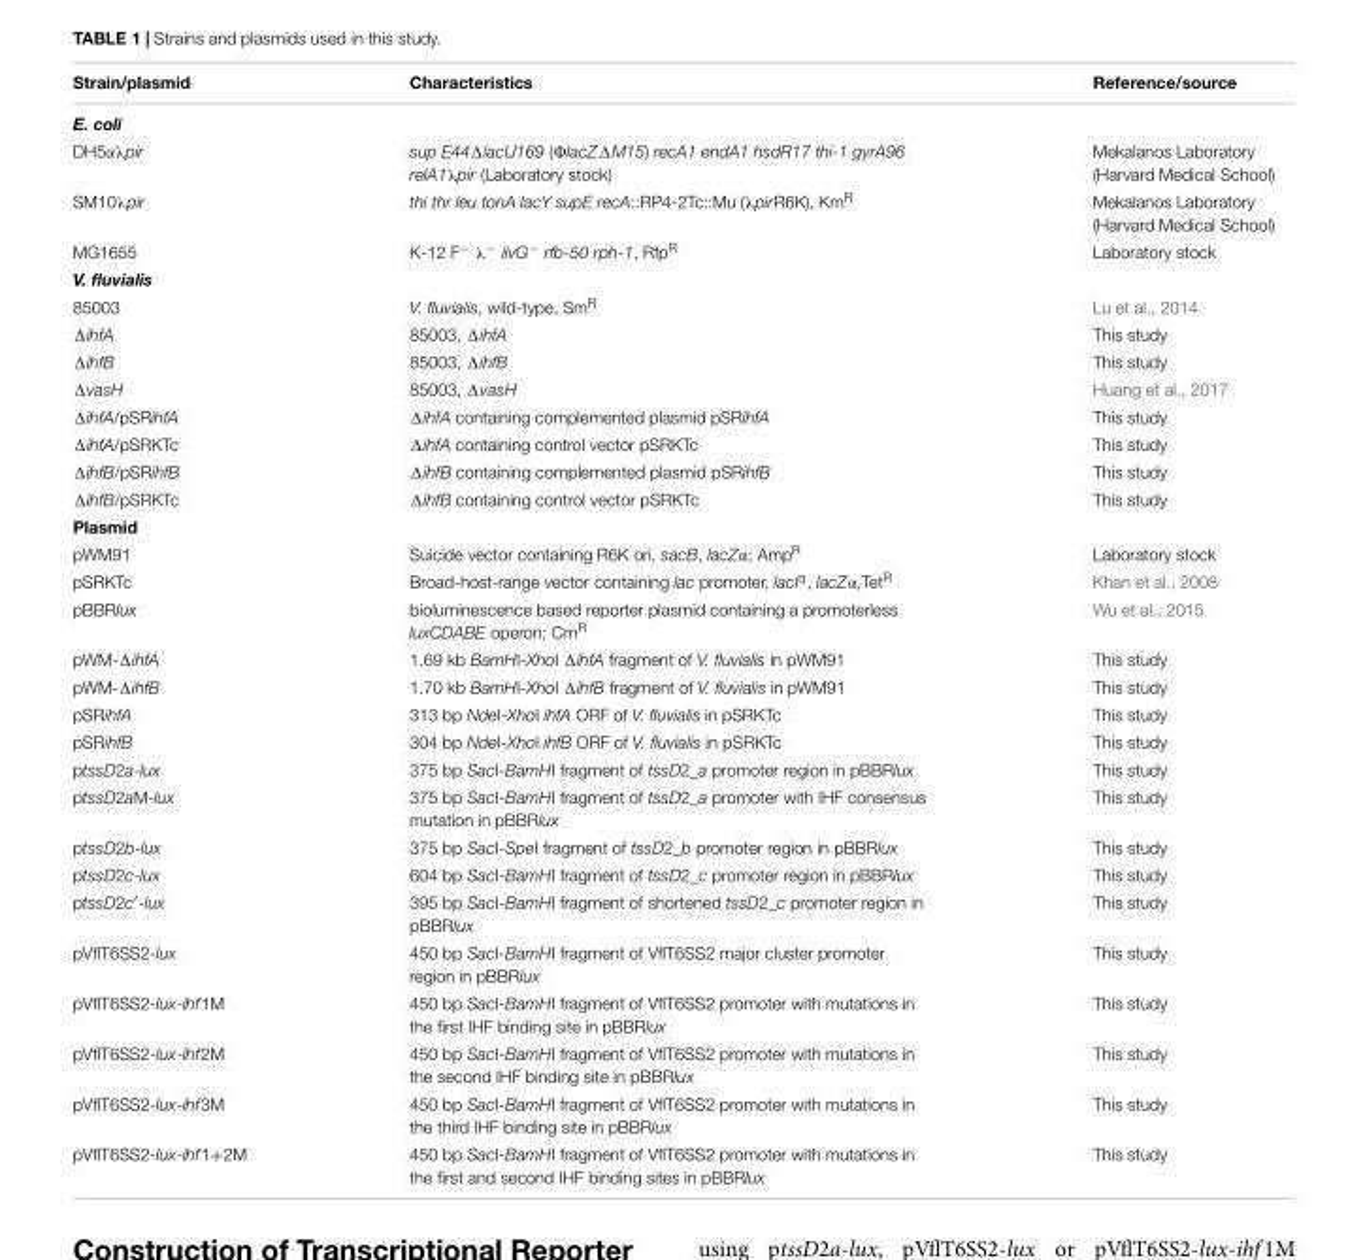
<table><thead><tr><td>Strain/plasmid</td><td>Characteristics</td><td>Reference/source</td></tr></thead><tbody><tr><td colspan="3">E. coli</td></tr><tr><td>DH5αλpir</td><td>sup E44�lacU169 (�lacZ�M15) recA1 endA1 hsdR17 thi-1 gyrA96 relA1λpir (Laboratory stock)</td><td>Mekalanos Laboratory (Harvard Medical School)</td></tr><tr><td>SM10λpir</td><td>thi thr leu tonA lacY supE recA::RP4-2Tc::Mu (λpirR6K), Km<sup>R</sup></td><td>Mekalanos Laboratory (Harvard Medical School)</td></tr><tr><td>MG1655</td><td>K-12 F<sup>−</sup> λ<sup>−</sup> ilvG<sup>−</sup> rfb-50 rph-1, Rfp<sup>R</sup></td><td>Laboratory stock</td></tr><tr><td colspan="3">V. fluvialis</td></tr><tr><td>85003</td><td>V. fluvialis, wild-type, Sm<sup>R</sup></td><td>Lu et al., 2014</td></tr><tr><td>ΔihfA</td><td>85003, ΔihfA</td><td>This study</td></tr><tr><td>ΔihfB</td><td>85003, ΔihfB</td><td>This study</td></tr><tr><td>ΔvasH</td><td>85003, ΔvasH</td><td>Huang et al., 2017</td></tr><tr><td>ΔihfA/pSRihfA</td><td>ΔihfA containing complemented plasmid pSRihfA</td><td>This study</td></tr><tr><td>ΔihfA/pSRKTc</td><td>ΔihfA containing control vector pSRKTc</td><td>This study</td></tr><tr><td>ΔihfB/pSRihfB</td><td>ΔihfB containing complemented plasmid pSRihfB</td><td>This study</td></tr><tr><td>ΔihfB/pSRKTc</td><td>ΔihfB containing control vector pSRKTc</td><td>This study</td></tr><tr><td colspan="3">Plasmid</td></tr><tr><td>pWM91</td><td>Suicide vector containing R6K ori, sacB, lacZα; Amp<sup>R</sup></td><td>Laboratory stock</td></tr><tr><td>pSRKTc</td><td>Broad-host-range vector containing lac promoter, lacI<sup>q</sup>, lacZα,Tet<sup>R</sup></td><td>Khan et al., 2008</td></tr><tr><td>pBBRlux</td><td>bioluminescence based reporter plasmid containing a promoterless luxCDABE operon; Cm<sup>R</sup></td><td>Wu et al., 2015</td></tr><tr><td>pWM-ΔihfA</td><td>1.69 kb BamHI-XhoI ΔihfA fragment of V. fluvialis in pWM91</td><td>This study</td></tr><tr><td>pWM-ΔihfB</td><td>1.70 kb BamHI-XhoI ΔihfB fragment of V. fluvialis in pWM91</td><td>This study</td></tr><tr><td>pSRihfA</td><td>313 bp NdeI-XhoI ihfA ORF of V. fluvialis in pSRKTc</td><td>This study</td></tr><tr><td>pSRihfB</td><td>304 bp NdeI-XhoI ihfB ORF of V. fluvialis in pSRKTc</td><td>This study</td></tr><tr><td>ptssD2a-lux</td><td>375 bp SacI-BamHI fragment of tssD2_a promoter region in pBBRlux</td><td>This study</td></tr><tr><td>ptssD2aM-lux</td><td>375 bp SacI-BamHI fragment of tssD2_a promoter with IHF consensus mutation in pBBRlux</td><td>This study</td></tr><tr><td>ptssD2b-lux</td><td>375 bp SacI-SpeI fragment of tssD2_b promoter region in pBBRlux</td><td>This study</td></tr><tr><td>ptssD2c-lux</td><td>604 bp SacI-BamHI fragment of tssD2_c promoter region in pBBRlux</td><td>This study</td></tr><tr><td>ptssD2c′-lux</td><td>395 bp SacI-BamHI fragment of shortened tssD2_c promoter region in pBBRlux</td><td>This study</td></tr><tr><td>pVflT6SS2-lux</td><td>450 bp SacI-BamHI fragment of VflT6SS2 major cluster promoter region in pBBRlux</td><td>This study</td></tr><tr><td>pVflT6SS2-lux-ihf1M</td><td>450 bp SacI-BamHI fragment of VflT6SS2 promoter with mutations in the first IHF binding site in pBBRlux</td><td>This study</td></tr><tr><td>pVflT6SS2-lux-ihf2M</td><td>450 bp SacI-BamHI fragment of VflT6SS2 promoter with mutations in the second IHF binding site in pBBRlux</td><td>This study</td></tr><tr><td>pVflT6SS2-lux-ihf3M</td><td>450 bp SacI-BamHI fragment of VflT6SS2 promoter with mutations in the third IHF binding site in pBBRlux</td><td>This study</td></tr><tr><td>pVflT6SS2-lux-ihf1+2M</td><td>450 bp SacI-BamHI fragment of VflT6SS2 promoter with mutations in the first and second IHF binding sites in pBBRlux</td><td>This study</td></tr></tbody></table>